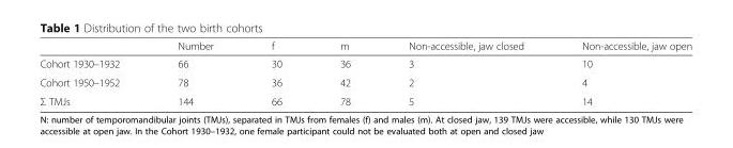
<table><thead><tr><td></td><td>Number</td><td>f</td><td>m</td><td>Non-accessible, jaw closed</td><td>Non-accessible, jaw open</td></tr></thead><tbody><tr><td>Cohort 1930–1932</td><td>66</td><td>30</td><td>36</td><td>3</td><td>10</td></tr><tr><td>Cohort 1950–1952</td><td>78</td><td>36</td><td>42</td><td>2</td><td>4</td></tr><tr><td>Σ TMJs</td><td>144</td><td>66</td><td>78</td><td>5</td><td>14</td></tr></tbody></table>